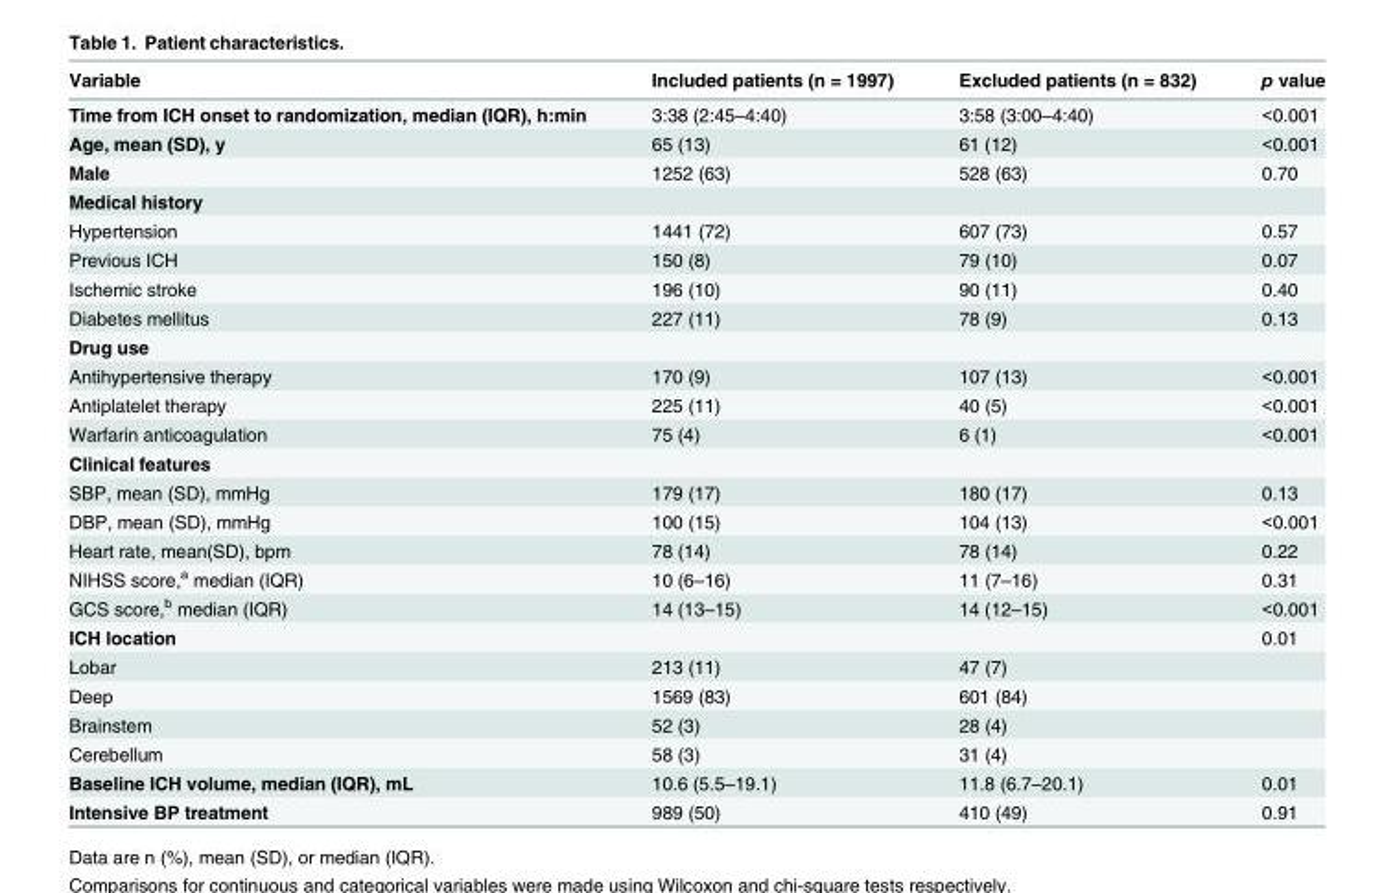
<table><thead><tr><td>Variable</td><td>Included patients (n = 1997)</td><td>Excluded patients (n = 832)</td><td>p value</td></tr></thead><tbody><tr><td>Time from ICH onset to randomization, median (IQR), h:min</td><td>3:38 (2:45–4:40)</td><td>3:58 (3:00–4:40)</td><td>&lt;0.001</td></tr><tr><td>Age, mean (SD), y</td><td>65 (13)</td><td>61 (12)</td><td>&lt;0.001</td></tr><tr><td>Male</td><td>1252 (63)</td><td>528 (63)</td><td>0.70</td></tr><tr><td colspan="4">Medical history</td></tr><tr><td>Hypertension</td><td>1441 (72)</td><td>607 (73)</td><td>0.57</td></tr><tr><td>Previous ICH</td><td>150 (8)</td><td>79 (10)</td><td>0.07</td></tr><tr><td>Ischemic stroke</td><td>196 (10)</td><td>90 (11)</td><td>0.40</td></tr><tr><td>Diabetes mellitus</td><td>227 (11)</td><td>78 (9)</td><td>0.13</td></tr><tr><td colspan="4">Drug use</td></tr><tr><td>Antihypertensive therapy</td><td>170 (9)</td><td>107 (13)</td><td>&lt;0.001</td></tr><tr><td>Antiplatelet therapy</td><td>225 (11)</td><td>40 (5)</td><td>&lt;0.001</td></tr><tr><td>Warfarin anticoagulation</td><td>75 (4)</td><td>6 (1)</td><td>&lt;0.001</td></tr><tr><td colspan="4">Clinical features</td></tr><tr><td>SBP, mean (SD), mmHg</td><td>179 (17)</td><td>180 (17)</td><td>0.13</td></tr><tr><td>DBP, mean (SD), mmHg</td><td>100 (15)</td><td>104 (13)</td><td>&lt;0.001</td></tr><tr><td>Heart rate, mean(SD), bpm</td><td>78 (14)</td><td>78 (14)</td><td>0.22</td></tr><tr><td>NIHSS score,<sup>a</sup> median (IQR)</td><td>10 (6–16)</td><td>11 (7–16)</td><td>0.31</td></tr><tr><td>GCS score,<sup>b</sup> median (IQR)</td><td>14 (13–15)</td><td>14 (12–15)</td><td>&lt;0.001</td></tr><tr><td>ICH location</td><td></td><td></td><td>0.01</td></tr><tr><td>Lobar</td><td>213 (11)</td><td>47 (7)</td><td></td></tr><tr><td>Deep</td><td>1569 (83)</td><td>601 (84)</td><td></td></tr><tr><td>Brainstem</td><td>52 (3)</td><td>28 (4)</td><td></td></tr><tr><td>Cerebellum</td><td>58 (3)</td><td>31 (4)</td><td></td></tr><tr><td>Baseline ICH volume, median (IQR), mL</td><td>10.6 (5.5–19.1)</td><td>11.8 (6.7–20.1)</td><td>0.01</td></tr><tr><td>Intensive BP treatment</td><td>989 (50)</td><td>410 (49)</td><td>0.91</td></tr></tbody></table>